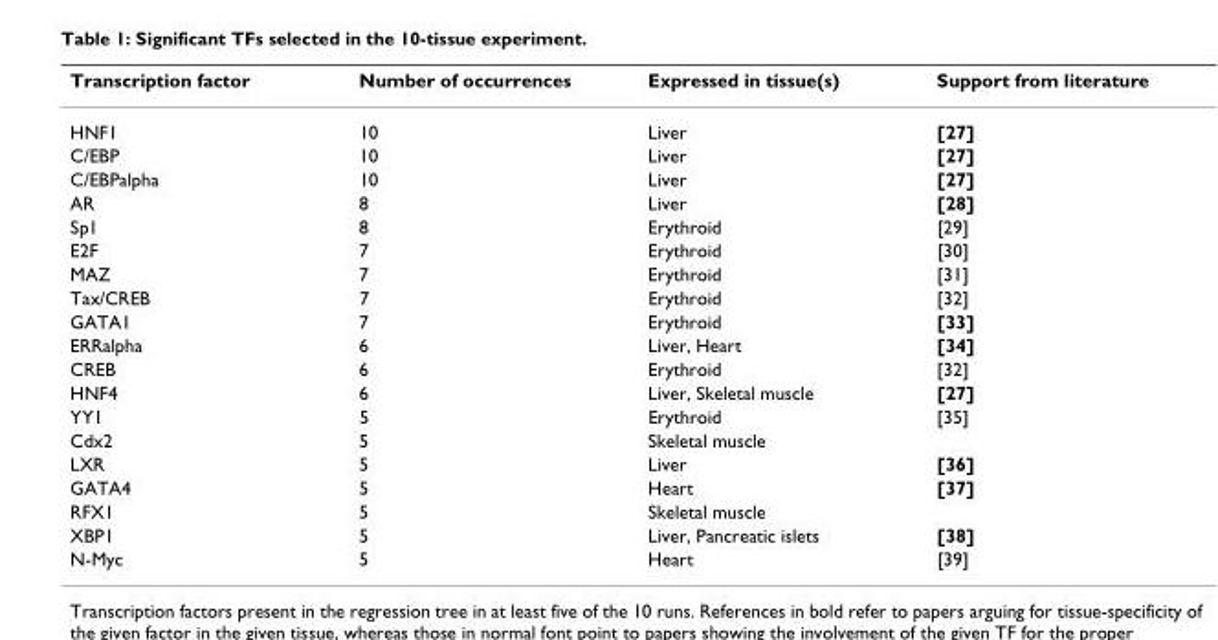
<table><thead><tr><td>Transcription factor</td><td>Number of occurrences</td><td>Expressed in tissue(s)</td><td>Support from literature</td></tr></thead><tbody><tr><td>HNF1</td><td>10</td><td>Liver</td><td>[27]</td></tr><tr><td>C/EBP</td><td>10</td><td>Liver</td><td>[27]</td></tr><tr><td>C/EBPalpha</td><td>10</td><td>Liver</td><td>[27]</td></tr><tr><td>AR</td><td>8</td><td>Liver</td><td>[28]</td></tr><tr><td>Sp1</td><td>8</td><td>Erythroid</td><td>[29]</td></tr><tr><td>E2F</td><td>7</td><td>Erythroid</td><td>[30]</td></tr><tr><td>MAZ</td><td>7</td><td>Erythroid</td><td>[31]</td></tr><tr><td>Tax/CREB</td><td>7</td><td>Erythroid</td><td>[32]</td></tr><tr><td>GATA1</td><td>7</td><td>Erythroid</td><td>[33]</td></tr><tr><td>ERRalpha</td><td>6</td><td>Liver, Heart</td><td>[34]</td></tr><tr><td>CREB</td><td>6</td><td>Erythroid</td><td>[32]</td></tr><tr><td>HNF4</td><td>6</td><td>Liver, Skeletal muscle</td><td>[27]</td></tr><tr><td>YY1</td><td>5</td><td>Erythroid</td><td>[35]</td></tr><tr><td>Cdx2</td><td>5</td><td>Skeletal muscle</td><td></td></tr><tr><td>LXR</td><td>5</td><td>Liver</td><td>[36]</td></tr><tr><td>GATA4</td><td>5</td><td>Heart</td><td>[37]</td></tr><tr><td>RFX1</td><td>5</td><td>Skeletal muscle</td><td></td></tr><tr><td>XBP1</td><td>5</td><td>Liver, Pancreatic islets</td><td>[38]</td></tr><tr><td>N-Myc</td><td>5</td><td>Heart</td><td>[39]</td></tr></tbody></table>